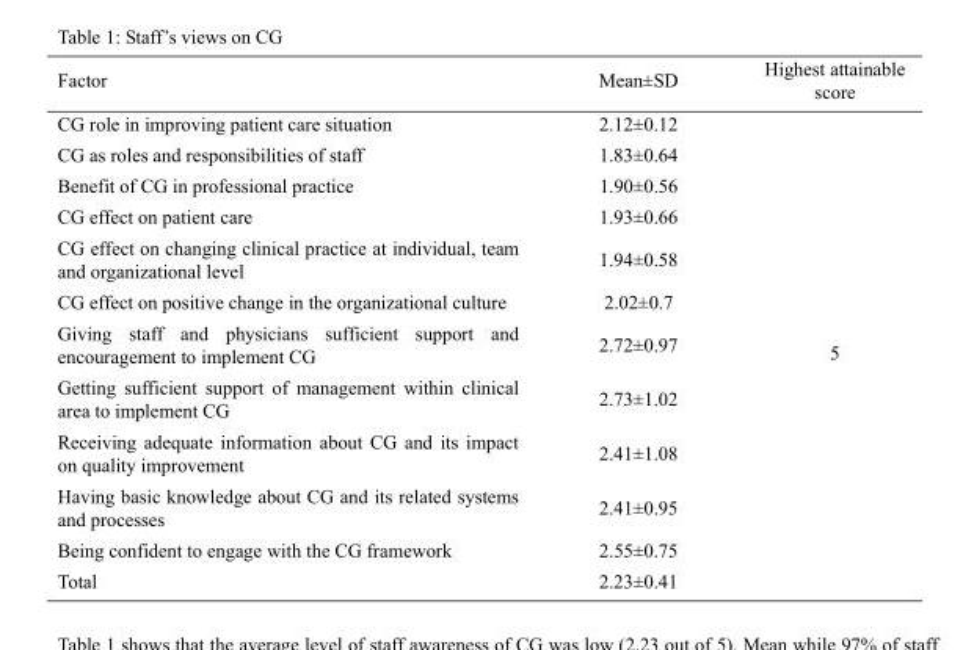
<table><thead><tr><td>Factor</td><td>Mean±SD</td><td>Highest attainable score</td></tr></thead><tbody><tr><td>CG role in improving patient care situation</td><td>2.12±0.12</td><td></td></tr><tr><td>CG as roles and responsibilities of staff</td><td>1.83±0.64</td><td></td></tr><tr><td>Benefit of CG in professional practice</td><td>1.90±0.56</td><td></td></tr><tr><td>CG effect on patient care</td><td>1.93±0.66</td><td></td></tr><tr><td>CG effect on changing clinical practice at individual, team and organizational level</td><td>1.94±0.58</td><td></td></tr><tr><td>CG effect on positive change in the organizational culture</td><td>2.02±0.7</td><td></td></tr><tr><td>Giving staff and physicians sufficient support and encouragement to implement CG</td><td>2.72±0.97</td><td>5</td></tr><tr><td>Getting sufficient support of management within clinical area to implement CG</td><td>2.73±1.02</td><td></td></tr><tr><td>Receiving adequate information about CG and its impact on quality improvement</td><td>2.41±1.08</td><td></td></tr><tr><td>Having basic knowledge about CG and its related systems and processes</td><td>2.41±0.95</td><td></td></tr><tr><td>Being confident to engage with the CG framework</td><td>2.55±0.75</td><td></td></tr><tr><td>Total</td><td>2.23±0.41</td><td></td></tr></tbody></table>